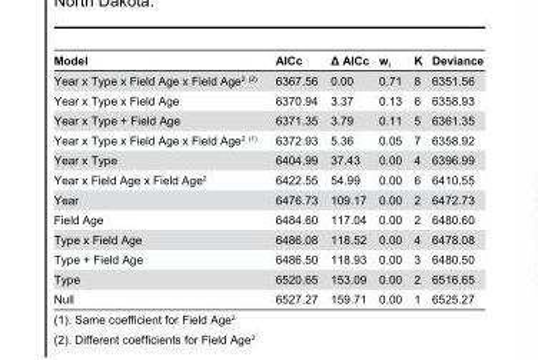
<table><thead><tr><td>Model</td><td>AICc</td><td>Δ AICc</td><td>w<sub>i</sub></td><td>K</td><td>Deviance</td></tr></thead><tbody><tr><td>Year x Type x Field Age x Field Age<sup>2</sup> (2)</td><td>6367.56</td><td>0.00</td><td>0.71</td><td>8</td><td>6351.56</td></tr><tr><td>Year x Type x Field Age</td><td>6370.94</td><td>3.37</td><td>0.13</td><td>6</td><td>6358.93</td></tr><tr><td>Year x Type + Field Age</td><td>6371.35</td><td>3.79</td><td>0.11</td><td>5</td><td>6361.35</td></tr><tr><td>Year x Type x Field Age x Field Age<sup>2</sup> (1)</td><td>6372.93</td><td>5.36</td><td>0.05</td><td>7</td><td>6358.92</td></tr><tr><td>Year x Type</td><td>6404.99</td><td>37.43</td><td>0.00</td><td>4</td><td>6396.99</td></tr><tr><td>Year x Field Age x Field Age<sup>2</sup></td><td>6422.55</td><td>54.99</td><td>0.00</td><td>6</td><td>6410.55</td></tr><tr><td>Year</td><td>6476.73</td><td>109.17</td><td>0.00</td><td>2</td><td>6472.73</td></tr><tr><td>Field Age</td><td>6484.60</td><td>117.04</td><td>0.00</td><td>2</td><td>6480.60</td></tr><tr><td>Type x Field Age</td><td>6486.08</td><td>118.52</td><td>0.00</td><td>4</td><td>6478.08</td></tr><tr><td>Type + Field Age</td><td>6486.50</td><td>118.93</td><td>0.00</td><td>3</td><td>6480.50</td></tr><tr><td>Type</td><td>6520.65</td><td>153.09</td><td>0.00</td><td>2</td><td>6516.65</td></tr><tr><td>Null</td><td>6527.27</td><td>159.71</td><td>0.00</td><td>1</td><td>6525.27</td></tr></tbody></table>